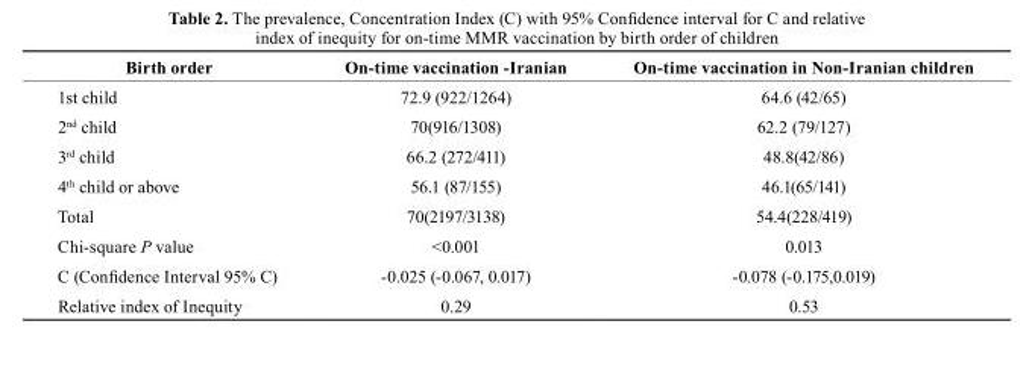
<table><thead><tr><td>birth order</td><td>On-time vaccination -Iranian</td><td>On-time vaccination in Non-Iranian children</td></tr></thead><tbody><tr><td>1<sup>st</sup> child</td><td>72.9 (922/1264)</td><td>64.6 (42/65)</td></tr><tr><td>2<sup>nd</sup> child</td><td>70(916/1308)</td><td>62.2 (79/127)</td></tr><tr><td>3<sup>rd</sup> child</td><td>66.2 (272/411)</td><td>48.8(42/86)</td></tr><tr><td>4<sup>th</sup> child or above</td><td>56.1 (87/155)</td><td>46.1(65/141)</td></tr><tr><td>Total</td><td>70(2197/3138)</td><td>54.4(228/419)</td></tr><tr><td>Chi-square P value</td><td>&lt;0.001</td><td>0.013</td></tr><tr><td>C (Confidence Interval 95% C)</td><td>-0.025 (-0.067, 0.017)</td><td>-0.078 (-0.175,0.019)</td></tr><tr><td>Relative index of Inequity</td><td>0.29</td><td>0.53</td></tr></tbody></table>